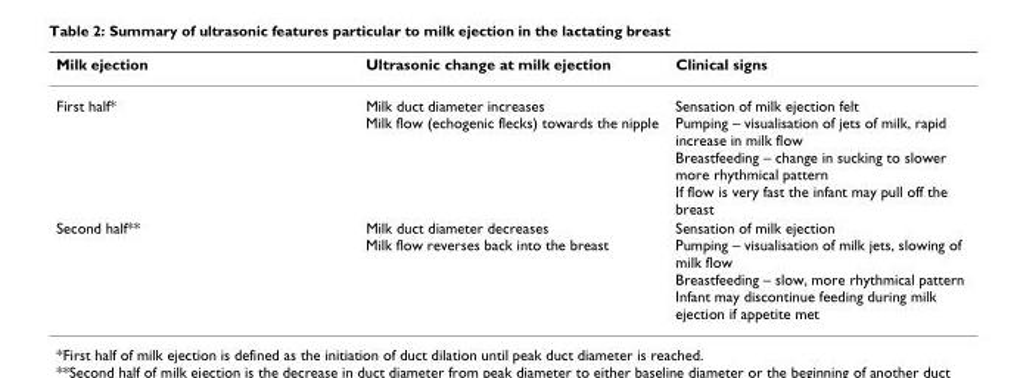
<table><thead><tr><td>Milk ejection</td><td>Ultrasonic change at milk ejection</td><td>Clinical signs</td></tr></thead><tbody><tr><td>First half*</td><td>Milk duct diameter increases Milk flow (echogenic flecks) towards the nipple</td><td>Sensation of milk ejection felt Pumping – visualisation of jets of milk, rapid increase in milk flow Breastfeeding – change in sucking to slower more rhythmical pattern If flow is very fast the infant may pull off the breast</td></tr><tr><td>Second half**</td><td>Milk duct diameter decreases Milk flow reverses back into the breast</td><td>Sensation of milk ejection Pumping – visualisation of milk jets, slowing of milk flow Breastfeeding – slow, more rhythmical pattern Infant may discontinue feeding during milk ejection if appetite met</td></tr></tbody></table>